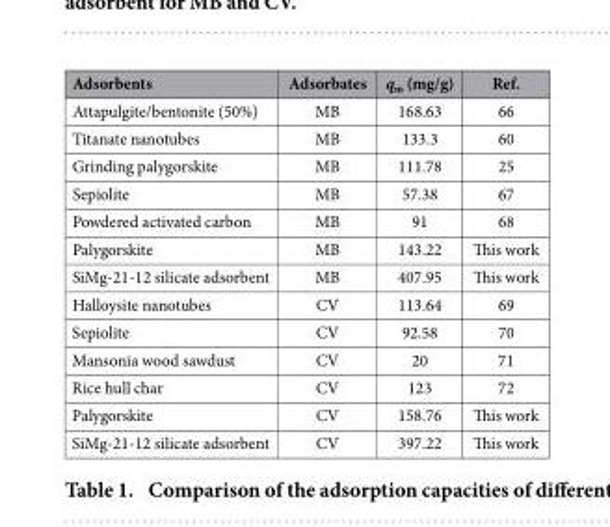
<table><thead><tr><td>Adsorbents</td><td>Adsorbates</td><td>q<sub>m</sub> (mg/g)</td><td>Ref.</td></tr></thead><tbody><tr><td>Attapulgite/bentonite (50%)</td><td>MB</td><td>168.63</td><td>66</td></tr><tr><td>Titanate nanotubes</td><td>MB</td><td>133.3</td><td>60</td></tr><tr><td>Grinding palygorskite</td><td>MB</td><td>111.78</td><td>25</td></tr><tr><td>Sepiolite</td><td>MB</td><td>57.38</td><td>67</td></tr><tr><td>Powdered activated carbon</td><td>MB</td><td>91</td><td>68</td></tr><tr><td>Palygorskite</td><td>MB</td><td>143.22</td><td>This work</td></tr><tr><td>SiMg-21-12 silicate adsorbent</td><td>MB</td><td>407.95</td><td>This work</td></tr><tr><td>Halloysite nanotubes</td><td>CV</td><td>113.64</td><td>69</td></tr><tr><td>Sepiolite</td><td>CV</td><td>92.58</td><td>70</td></tr><tr><td>Mansonia wood sawdust</td><td>CV</td><td>20</td><td>71</td></tr><tr><td>Rice hull char</td><td>CV</td><td>123</td><td>72</td></tr><tr><td>Palygorskite</td><td>CV</td><td>158.76</td><td>This work</td></tr><tr><td>SiMg-21-12 silicate adsorbent</td><td>CV</td><td>397.22</td><td>This work</td></tr></tbody></table>